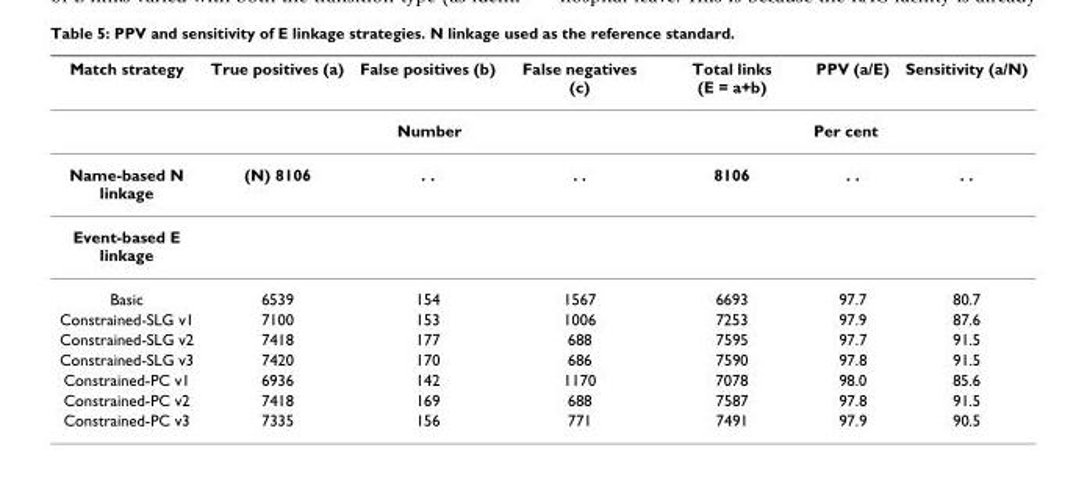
<table><thead><tr><td>Match strategy</td><td>True positives (a)</td><td>False positives (b)</td><td>False negatives (c)</td><td>Total links (E = a+b)</td><td>PPV (a/E)</td><td>Sensitivity (a/N)</td></tr></thead><tbody><tr><td></td><td colspan="3">Number</td><td colspan="3">Per cent</td></tr><tr><td>Name-based N linkage</td><td>(N) 8106</td><td>. .</td><td>. .</td><td>8106</td><td>. .</td><td>. .</td></tr><tr><td colspan="7">Event-based E linkage</td></tr><tr><td>Basic</td><td>6539</td><td>154</td><td>1567</td><td>6693</td><td>97.7</td><td>80.7</td></tr><tr><td>Constrained-SLG v1</td><td>7100</td><td>153</td><td>1006</td><td>7253</td><td>97.9</td><td>87.6</td></tr><tr><td>Constrained-SLG v2</td><td>7418</td><td>177</td><td>688</td><td>7595</td><td>97.7</td><td>91.5</td></tr><tr><td>Constrained-SLG v3</td><td>7420</td><td>170</td><td>686</td><td>7590</td><td>97.8</td><td>91.5</td></tr><tr><td>Constrained-PC v1</td><td>6936</td><td>142</td><td>1170</td><td>7078</td><td>98.0</td><td>85.6</td></tr><tr><td>Constrained-PC v2</td><td>7418</td><td>169</td><td>688</td><td>7587</td><td>97.8</td><td>91.5</td></tr><tr><td>Constrained-PC v3</td><td>7335</td><td>156</td><td>771</td><td>7491</td><td>97.9</td><td>90.5</td></tr></tbody></table>